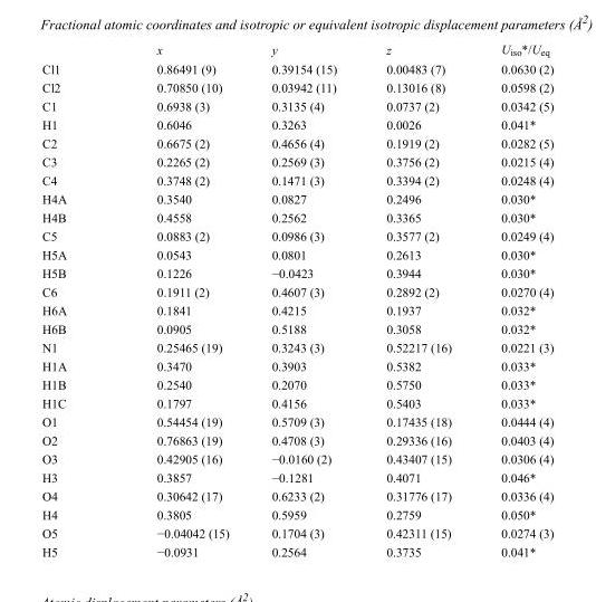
<table><thead><tr><td></td><td>x</td><td>y</td><td>z</td><td>U<sub>iso</sub>*/U<sub>eq</sub></td></tr></thead><tbody><tr><td>Cl1</td><td>0.86491 (9)</td><td>0.39154 (15)</td><td>0.00483 (7)</td><td>0.0630 (2)</td></tr><tr><td>Cl2</td><td>0.70850 (10)</td><td>0.03942 (11)</td><td>0.13016 (8)</td><td>0.0598 (2)</td></tr><tr><td>C1</td><td>0.6938 (3)</td><td>0.3135 (4)</td><td>0.0737 (2)</td><td>0.0342 (5)</td></tr><tr><td>H1</td><td>0.6046</td><td>0.3263</td><td>0.0026</td><td>0.041*</td></tr><tr><td>C2</td><td>0.6675 (2)</td><td>0.4656 (4)</td><td>0.1919 (2)</td><td>0.0282 (5)</td></tr><tr><td>C3</td><td>0.2265 (2)</td><td>0.2569 (3)</td><td>0.3756 (2)</td><td>0.0215 (4)</td></tr><tr><td>C4</td><td>0.3748 (2)</td><td>0.1471 (3)</td><td>0.3394 (2)</td><td>0.0248 (4)</td></tr><tr><td>H4A</td><td>0.3540</td><td>0.0827</td><td>0.2496</td><td>0.030*</td></tr><tr><td>H4B</td><td>0.4558</td><td>0.2562</td><td>0.3365</td><td>0.030*</td></tr><tr><td>C5</td><td>0.0883 (2)</td><td>0.0986 (3)</td><td>0.3577 (2)</td><td>0.0249 (4)</td></tr><tr><td>H5A</td><td>0.0543</td><td>0.0801</td><td>0.2613</td><td>0.030*</td></tr><tr><td>H5B</td><td>0.1226</td><td>−0.0423</td><td>0.3944</td><td>0.030*</td></tr><tr><td>C6</td><td>0.1911 (2)</td><td>0.4607 (3)</td><td>0.2892 (2)</td><td>0.0270 (4)</td></tr><tr><td>H6A</td><td>0.1841</td><td>0.4215</td><td>0.1937</td><td>0.032*</td></tr><tr><td>H6B</td><td>0.0905</td><td>0.5188</td><td>0.3058</td><td>0.032*</td></tr><tr><td>N1</td><td>0.25465 (19)</td><td>0.3243 (3)</td><td>0.52217 (16)</td><td>0.0221 (3)</td></tr><tr><td>H1A</td><td>0.3470</td><td>0.3903</td><td>0.5382</td><td>0.033*</td></tr><tr><td>H1B</td><td>0.2540</td><td>0.2070</td><td>0.5750</td><td>0.033*</td></tr><tr><td>H1C</td><td>0.1797</td><td>0.4156</td><td>0.5403</td><td>0.033*</td></tr><tr><td>O1</td><td>0.54454 (19)</td><td>0.5709 (3)</td><td>0.17435 (18)</td><td>0.0444 (4)</td></tr><tr><td>O2</td><td>0.76863 (19)</td><td>0.4708 (3)</td><td>0.29336 (16)</td><td>0.0403 (4)</td></tr><tr><td>O3</td><td>0.42905 (16)</td><td>−0.0160 (2)</td><td>0.43407 (15)</td><td>0.0306 (4)</td></tr><tr><td>H3</td><td>0.3857</td><td>−0.1281</td><td>0.4071</td><td>0.046*</td></tr><tr><td>O4</td><td>0.30642 (17)</td><td>0.6233 (2)</td><td>0.31776 (17)</td><td>0.0336 (4)</td></tr><tr><td>H4</td><td>0.3805</td><td>0.5959</td><td>0.2759</td><td>0.050*</td></tr><tr><td>O5</td><td>−0.04042 (15)</td><td>0.1704 (3)</td><td>0.42311 (15)</td><td>0.0274 (3)</td></tr><tr><td>H5</td><td>−0.0931</td><td>0.2564</td><td>0.3735</td><td>0.041*</td></tr></tbody></table>